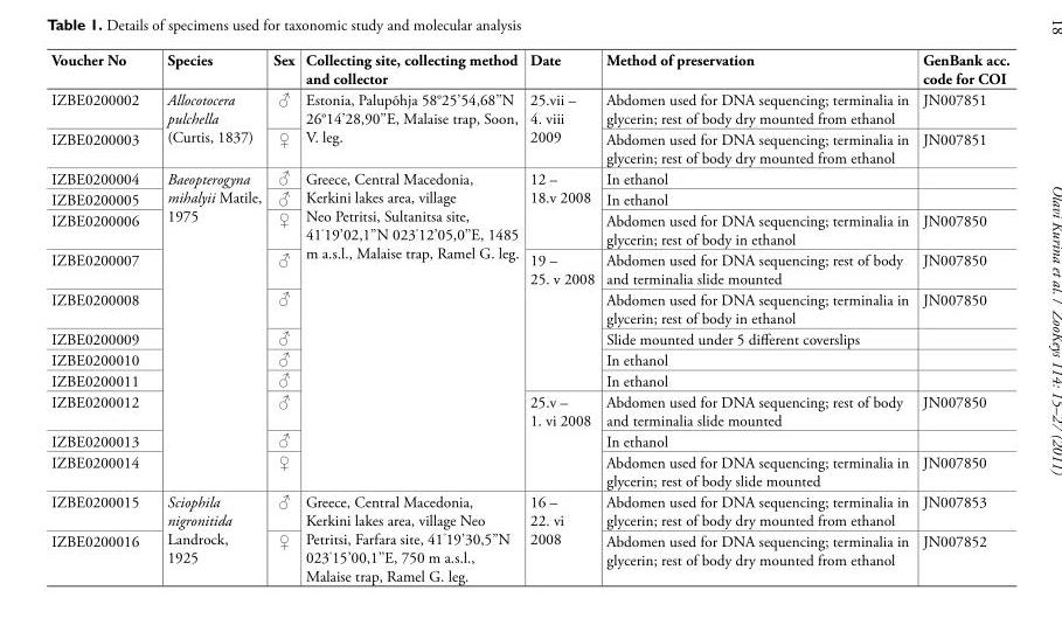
<table><thead><tr><td>Voucher No</td><td>Species</td><td>Sex</td><td>Collecting site, collecting method and collector</td><td>Date</td><td>Method of preservation</td><td>GenBank acc. code for COI</td></tr></thead><tbody><tr><td>IZBE0200002</td><td rowspan="2">Allocotocera pulchella (Curtis, 1837)</td><td>♂</td><td rowspan="2">Estonia, Palupõhja 58°25’54,68’’N 26°14’28,90’’E, Malaise trap, Soon, V. leg.</td><td rowspan="2">25.vii – 4. viii 2009</td><td>Abdomen used for DNA sequencing; terminalia in glycerin; rest of body dry mounted from ethanol</td><td>JN007851</td></tr><tr><td>IZBE0200003</td><td>♀</td><td>Abdomen used for DNA sequencing; terminalia in glycerin; rest of body dry mounted from ethanol</td><td>JN007851</td></tr><tr><td>IZBE0200004</td><td rowspan="11">Baeopterogyna mihalyii Matile, 1975</td><td>♂</td><td rowspan="11">Greece, Central Macedonia, Kerkini lakes area, village Neo Petritsi, Sultanitsa site, 41°19’02,1”N 023°12’05,0’’E, 1485 m a.s.l., Malaise trap, Ramel G. leg.</td><td rowspan="3">12 – 18.v 2008</td><td>In ethanol</td><td></td></tr><tr><td>IZBE0200005</td><td>♂</td><td>In ethanol</td><td></td></tr><tr><td>IZBE0200006</td><td>♀</td><td>Abdomen used for DNA sequencing; terminalia in glycerin; rest of body in ethanol</td><td>JN007850</td></tr><tr><td>IZBE0200007</td><td>♂</td><td rowspan="5">19 – 25. v 2008</td><td>Abdomen used for DNA sequencing; rest of body and terminalia slide mounted</td><td>JN007850</td></tr><tr><td>IZBE0200008</td><td>♂</td><td>Abdomen used for DNA sequencing; terminalia in glycerin; rest of body in ethanol</td><td>JN007850</td></tr><tr><td>IZBE0200009</td><td>♂</td><td>Slide mounted under 5 different coverslips</td><td></td></tr><tr><td>IZBE0200010</td><td>♂</td><td>In ethanol</td><td></td></tr><tr><td>IZBE0200011</td><td>♂</td><td>In ethanol</td><td></td></tr><tr><td>IZBE0200012</td><td>♂</td><td rowspan="3">25.v – 1. vi 2008</td><td>Abdomen used for DNA sequencing; rest of body and terminalia slide mounted</td><td>JN007850</td></tr><tr><td>IZBE0200013</td><td>♂</td><td>In ethanol</td><td></td></tr><tr><td>IZBE0200014</td><td>♀</td><td>Abdomen used for DNA sequencing; terminalia in glycerin; rest of body slide mounted</td><td>JN007850</td></tr><tr><td>IZBE0200015</td><td rowspan="2">Sciophila nigronitida Landrock, 1925</td><td>♂</td><td rowspan="2">Greece, Central Macedonia, Kerkini lakes area, village Neo Petritsi, Farfara site, 41°19’30,5”N 023°15’00,1’’E, 750 m a.s.l., Malaise trap, Ramel G. leg.</td><td rowspan="2">16 – 22. vi 2008</td><td>Abdomen used for DNA sequencing; terminalia in glycerin; rest of body dry mounted from ethanol</td><td>JN007853</td></tr><tr><td>IZBE0200016</td><td>♀</td><td>Abdomen used for DNA sequencing; terminalia in glycerin; rest of body dry mounted from ethanol</td><td>JN007852</td></tr></tbody></table>